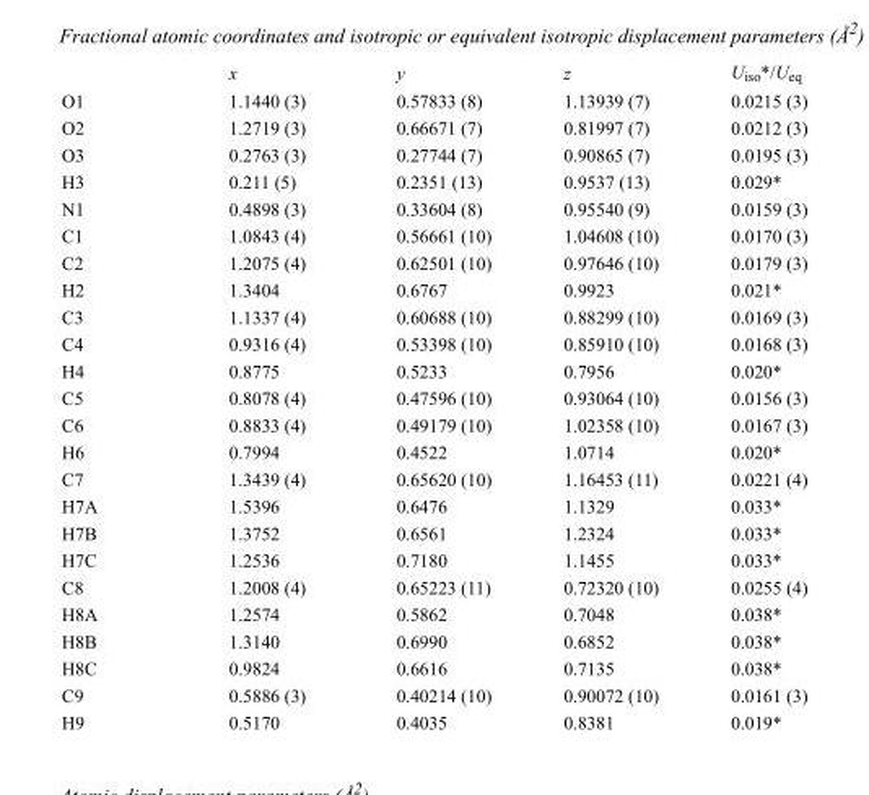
<table><thead><tr><td></td><td>x</td><td>y</td><td>z</td><td>U<sub>iso</sub>*/U<sub>eq</sub></td></tr></thead><tbody><tr><td>O1</td><td>1.1440 (3)</td><td>0.57833 (8)</td><td>1.13939 (7)</td><td>0.0215 (3)</td></tr><tr><td>O2</td><td>1.2719 (3)</td><td>0.66671 (7)</td><td>0.81997 (7)</td><td>0.0212 (3)</td></tr><tr><td>O3</td><td>0.2763 (3)</td><td>0.27744 (7)</td><td>0.90865 (7)</td><td>0.0195 (3)</td></tr><tr><td>H3</td><td>0.211 (5)</td><td>0.2351 (13)</td><td>0.9537 (13)</td><td>0.029*</td></tr><tr><td>N1</td><td>0.4898 (3)</td><td>0.33604 (8)</td><td>0.95540 (9)</td><td>0.0159 (3)</td></tr><tr><td>C1</td><td>1.0843 (4)</td><td>0.56661 (10)</td><td>1.04608 (10)</td><td>0.0170 (3)</td></tr><tr><td>C2</td><td>1.2075 (4)</td><td>0.62501 (10)</td><td>0.97646 (10)</td><td>0.0179 (3)</td></tr><tr><td>H2</td><td>1.3404</td><td>0.6767</td><td>0.9923</td><td>0.021*</td></tr><tr><td>C3</td><td>1.1337 (4)</td><td>0.60688 (10)</td><td>0.88299 (10)</td><td>0.0169 (3)</td></tr><tr><td>C4</td><td>0.9316 (4)</td><td>0.53398 (10)</td><td>0.85910 (10)</td><td>0.0168 (3)</td></tr><tr><td>H4</td><td>0.8775</td><td>0.5233</td><td>0.7956</td><td>0.020*</td></tr><tr><td>C5</td><td>0.8078 (4)</td><td>0.47596 (10)</td><td>0.93064 (10)</td><td>0.0156 (3)</td></tr><tr><td>C6</td><td>0.8833 (4)</td><td>0.49179 (10)</td><td>1.02358 (10)</td><td>0.0167 (3)</td></tr><tr><td>H6</td><td>0.7994</td><td>0.4522</td><td>1.0714</td><td>0.020*</td></tr><tr><td>C7</td><td>1.3439 (4)</td><td>0.65620 (10)</td><td>1.16453 (11)</td><td>0.0221 (4)</td></tr><tr><td>H7A</td><td>1.5396</td><td>0.6476</td><td>1.1329</td><td>0.033*</td></tr><tr><td>H7B</td><td>1.3752</td><td>0.6561</td><td>1.2324</td><td>0.033*</td></tr><tr><td>H7C</td><td>1.2536</td><td>0.7180</td><td>1.1455</td><td>0.033*</td></tr><tr><td>C8</td><td>1.2008 (4)</td><td>0.65223 (11)</td><td>0.72320 (10)</td><td>0.0255 (4)</td></tr><tr><td>H8A</td><td>1.2574</td><td>0.5862</td><td>0.7048</td><td>0.038*</td></tr><tr><td>H8B</td><td>1.3140</td><td>0.6990</td><td>0.6852</td><td>0.038*</td></tr><tr><td>H8C</td><td>0.9824</td><td>0.6616</td><td>0.7135</td><td>0.038*</td></tr><tr><td>C9</td><td>0.5886 (3)</td><td>0.40214 (10)</td><td>0.90072 (10)</td><td>0.0161 (3)</td></tr><tr><td>H9</td><td>0.5170</td><td>0.4035</td><td>0.8381</td><td>0.019*</td></tr></tbody></table>